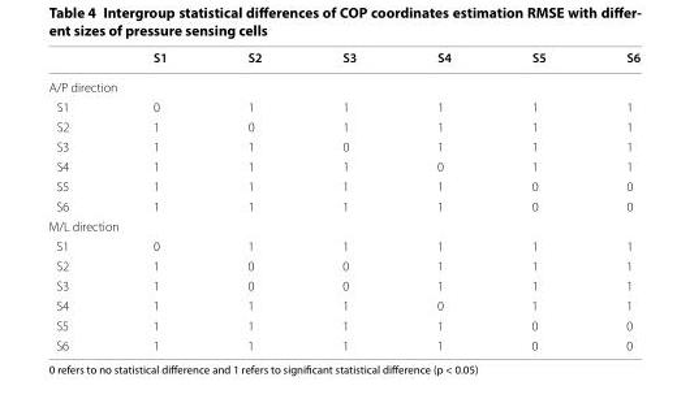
<table><thead><tr><td></td><td>S1</td><td>S2</td><td>S3</td><td>S4</td><td>S5</td><td>S6</td></tr></thead><tbody><tr><td colspan="7">A/P direction</td></tr><tr><td>S1</td><td>0</td><td>1</td><td>1</td><td>1</td><td>1</td><td>1</td></tr><tr><td>S2</td><td>1</td><td>0</td><td>1</td><td>1</td><td>1</td><td>1</td></tr><tr><td>S3</td><td>1</td><td>1</td><td>0</td><td>1</td><td>1</td><td>1</td></tr><tr><td>S4</td><td>1</td><td>1</td><td>1</td><td>0</td><td>1</td><td>1</td></tr><tr><td>S5</td><td>1</td><td>1</td><td>1</td><td>1</td><td>0</td><td>0</td></tr><tr><td>S6</td><td>1</td><td>1</td><td>1</td><td>1</td><td>0</td><td>0</td></tr><tr><td colspan="7">M/L direction</td></tr><tr><td>S1</td><td>0</td><td>1</td><td>1</td><td>1</td><td>1</td><td>1</td></tr><tr><td>S2</td><td>1</td><td>0</td><td>0</td><td>1</td><td>1</td><td>1</td></tr><tr><td>S3</td><td>1</td><td>0</td><td>0</td><td>1</td><td>1</td><td>1</td></tr><tr><td>S4</td><td>1</td><td>1</td><td>1</td><td>0</td><td>1</td><td>1</td></tr><tr><td>S5</td><td>1</td><td>1</td><td>1</td><td>1</td><td>0</td><td>0</td></tr><tr><td>S6</td><td>1</td><td>1</td><td>1</td><td>1</td><td>0</td><td>0</td></tr></tbody></table>